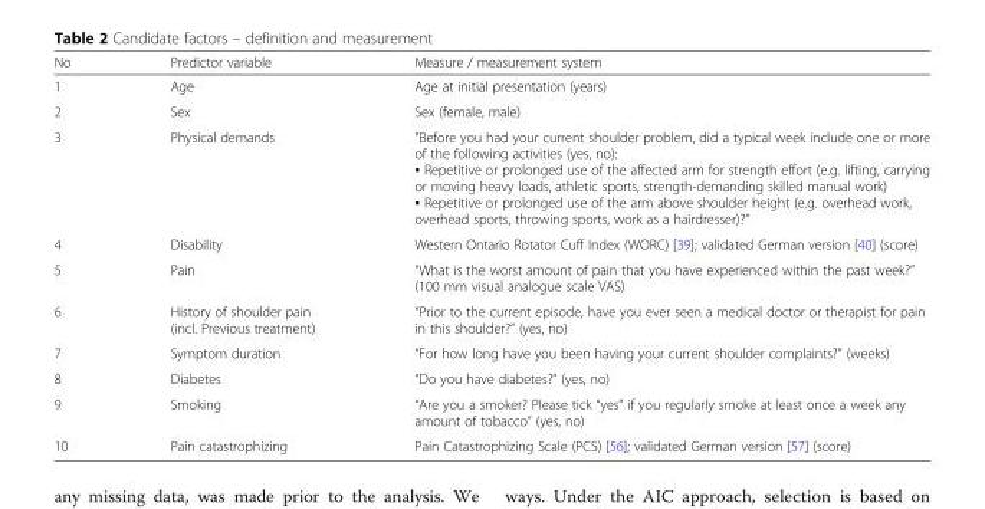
<table><thead><tr><td>No</td><td>Predictor variable</td><td>Measure / measurement system</td></tr></thead><tbody><tr><td>1</td><td>Age</td><td>Age at initial presentation (years)</td></tr><tr><td>2</td><td>Sex</td><td>Sex (female, male)</td></tr><tr><td>3</td><td>Physical demands</td><td>”Before you had your current shoulder problem, did a typical week include one or more of the following activities (yes, no): ▪ Repetitive or prolonged use of the affected arm for strength effort (e.g. lifting, carrying or moving heavy loads, athletic sports, strength-demanding skilled manual work) ▪ Repetitive or prolonged use of the arm above shoulder height (e.g. overhead work, overhead sports, throwing sports, work as a hairdresser)?”</td></tr><tr><td>4</td><td>Disability</td><td>Western Ontario Rotator Cuff Index (WORC) [39]; validated German version [40] (score)</td></tr><tr><td>5</td><td>Pain</td><td>“What is the worst amount of pain that you have experienced within the past week?” (100 mm visual analogue scale VAS)</td></tr><tr><td>6</td><td>History of shoulder pain (incl. Previous treatment)</td><td>“Prior to the current episode, have you ever seen a medical doctor or therapist for pain in this shoulder?” (yes, no)</td></tr><tr><td>7</td><td>Symptom duration</td><td>“For how long have you been having your current shoulder complaints?” (weeks)</td></tr><tr><td>8</td><td>Diabetes</td><td>“Do you have diabetes?” (yes, no)</td></tr><tr><td>9</td><td>Smoking</td><td>“Are you a smoker? Please tick “yes” if you regularly smoke at least once a week any amount of tobacco” (yes, no)</td></tr><tr><td>10</td><td>Pain catastrophizing</td><td>Pain Catastrophizing Scale (PCS) [56]; validated German version [57] (score)</td></tr></tbody></table>